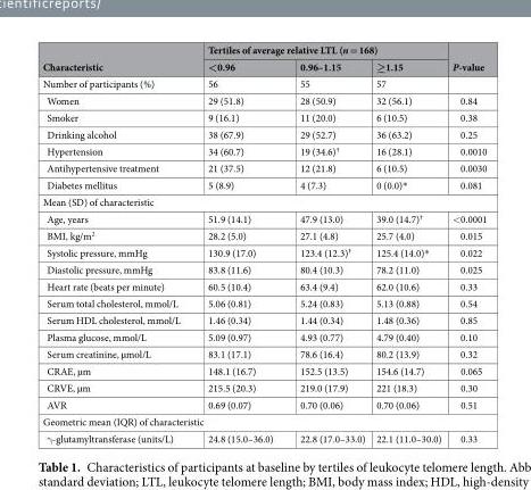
<table><thead><tr><td rowspan="2">Characteristic</td><td colspan="3">Tertiles of average relative LTL (n = 168)</td><td rowspan="2">P-value</td></tr><tr><td>&lt;0.96</td><td>0.96–1.15</td><td>≥1.15</td></tr></thead><tbody><tr><td>Number of participants (%)</td><td>56</td><td>55</td><td>57</td><td></td></tr><tr><td>Women</td><td>29 (51.8)</td><td>28 (50.9)</td><td>32 (56.1)</td><td>0.84</td></tr><tr><td>Smoker</td><td>9 (16.1)</td><td>11 (20.0)</td><td>6 (10.5)</td><td>0.38</td></tr><tr><td>Drinking alcohol</td><td>38 (67.9)</td><td>29 (52.7)</td><td>36 (63.2)</td><td>0.25</td></tr><tr><td>Hypertension</td><td>34 (60.7)</td><td>19 (34.6)<sup>†</sup></td><td>16 (28.1)</td><td>0.0010</td></tr><tr><td>Antihypertensive treatment</td><td>21 (37.5)</td><td>12 (21.8)</td><td>6 (10.5)</td><td>0.0030</td></tr><tr><td>Diabetes mellitus</td><td>5 (8.9)</td><td>4 (7.3)</td><td>0 (0.0)*</td><td>0.081</td></tr><tr><td colspan="5">Mean (SD) of characteristic</td></tr><tr><td>Age, years</td><td>51.9 (14.1)</td><td>47.9 (13.0)</td><td>39.0 (14.7)<sup>†</sup></td><td>&lt;0.0001</td></tr><tr><td>BMI, kg/m<sup>2</sup></td><td>28.2 (5.0)</td><td>27.1 (4.8)</td><td>25.7 (4.0)</td><td>0.015</td></tr><tr><td>Systolic pressure, mmHg</td><td>130.9 (17.0)</td><td>123.4 (12.3)<sup>†</sup></td><td>125.4 (14.0)*</td><td>0.022</td></tr><tr><td>Diastolic pressure, mmHg</td><td>83.8 (11.6)</td><td>80.4 (10.3)</td><td>78.2 (11.0)</td><td>0.025</td></tr><tr><td>Heart rate (beats per minute)</td><td>60.5 (10.4)</td><td>63.4 (9.4)</td><td>62.0 (10.6)</td><td>0.33</td></tr><tr><td>Serum total cholesterol, mmol/L</td><td>5.06 (0.81)</td><td>5.24 (0.83)</td><td>5.13 (0.88)</td><td>0.54</td></tr><tr><td>Serum HDL cholesterol, mmol/L</td><td>1.46 (0.34)</td><td>1.44 (0.34)</td><td>1.48 (0.36)</td><td>0.85</td></tr><tr><td>Plasma glucose, mmol/L</td><td>5.09 (0.97)</td><td>4.93 (0.77)</td><td>4.79 (0.40)</td><td>0.10</td></tr><tr><td>Serum creatinine, µmol/L</td><td>83.1 (17.1)</td><td>78.6 (16.4)</td><td>80.2 (13.9)</td><td>0.32</td></tr><tr><td>CRAE, µm</td><td>148.1 (16.7)</td><td>152.5 (13.5)</td><td>154.6 (14.7)</td><td>0.065</td></tr><tr><td>CRVE, µm</td><td>215.5 (20.3)</td><td>219.0 (17.9)</td><td>221 (18.3)</td><td>0.30</td></tr><tr><td>AVR</td><td>0.69 (0.07)</td><td>0.70 (0.06)</td><td>0.70 (0.06)</td><td>0.51</td></tr><tr><td colspan="5">Geometric mean (IQR) of characteristic</td></tr><tr><td>γ-glutamyltransferase (units/L)</td><td>24.8 (15.0–36.0)</td><td>22.8 (17.0–33.0)</td><td>22.1 (11.0–30.0)</td><td>0.33</td></tr></tbody></table>